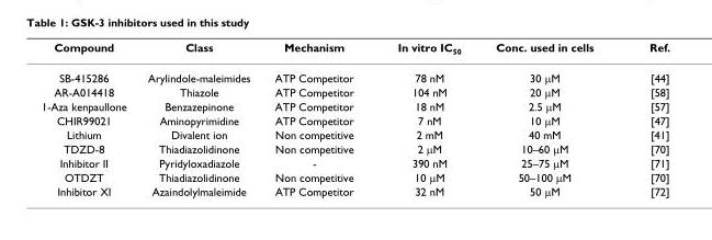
<table><thead><tr><td>Compound</td><td>Class</td><td>Mechanism</td><td>In vitro IC<sub>50</sub></td><td>Conc. used in cells</td><td>Ref.</td></tr></thead><tbody><tr><td>SB-415286</td><td>Arylindole-maleimides</td><td>ATP Competitor</td><td>78 nM</td><td>30 µM</td><td>[44]</td></tr><tr><td>AR-A014418</td><td>Thiazole</td><td>ATP Competitor</td><td>104 nM</td><td>20 µM</td><td>[58]</td></tr><tr><td>1-Aza kenpaullone</td><td>Benzazepinone</td><td>ATP Competitor</td><td>18 nM</td><td>2.5 µM</td><td>[57]</td></tr><tr><td>CHIR99021</td><td>Aminopyrimidine</td><td>ATP Competitor</td><td>7 nM</td><td>10 µM</td><td>[47]</td></tr><tr><td>Lithium</td><td>Divalent ion</td><td>Non competitive</td><td>2 mM</td><td>40 mM</td><td>[41]</td></tr><tr><td>TDZD-8</td><td>Thiadiazolidinone</td><td>Non competitive</td><td>2 µM</td><td>10–60 µM</td><td>[70]</td></tr><tr><td>Inhibitor II</td><td>Pyridyloxadiazole</td><td>-</td><td>390 nM</td><td>25–75 µM</td><td>[71]</td></tr><tr><td>OTDZT</td><td>Thiadiazolidinone</td><td>Non competitive</td><td>10 µM</td><td>50–100 µM</td><td>[70]</td></tr><tr><td>Inhibitor XI</td><td>Azaindolylmaleimide</td><td>ATP Competitor</td><td>32 nM</td><td>50 µM</td><td>[72]</td></tr></tbody></table>